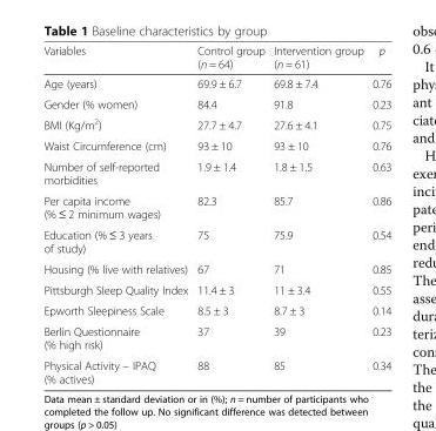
<table><thead><tr><td>Variables</td><td>Control group (n = 64)</td><td>Intervention group (n = 61)</td><td>p</td></tr></thead><tbody><tr><td>Age (years)</td><td>69.9 ± 6.7</td><td>69.8 ± 7.4</td><td>0.76</td></tr><tr><td>Gender (% women)</td><td>84.4</td><td>91.8</td><td>0.23</td></tr><tr><td>BMI (Kg/m<sup>2</sup>)</td><td>27.7 ± 4.7</td><td>27.6 ± 4.1</td><td>0.75</td></tr><tr><td>Waist Circumference (cm)</td><td>93 ± 10</td><td>93 ± 10</td><td>0.76</td></tr><tr><td>Number of self-reported morbidities</td><td>1.9 ± 1.4</td><td>1.8 ± 1.5</td><td>0.63</td></tr><tr><td>Per capita income (% ≤ 2 minimum wages)</td><td>82.3</td><td>85.7</td><td>0.86</td></tr><tr><td>Education (% ≤ 3 years of study)</td><td>75</td><td>75.9</td><td>0.54</td></tr><tr><td>Housing (% live with relatives)</td><td>67</td><td>71</td><td>0.85</td></tr><tr><td>Pittsburgh Sleep Quality Index</td><td>11.4 ± 3</td><td>11 ± 3.4</td><td>0.55</td></tr><tr><td>Epworth Sleepiness Scale</td><td>8.5 ± 3</td><td>8.7 ± 3</td><td>0.14</td></tr><tr><td>Berlin Questionnaire (% high risk)</td><td>37</td><td>39</td><td>0.23</td></tr><tr><td>Physical Activity – IPAQ (% actives)</td><td>88</td><td>85</td><td>0.34</td></tr></tbody></table>